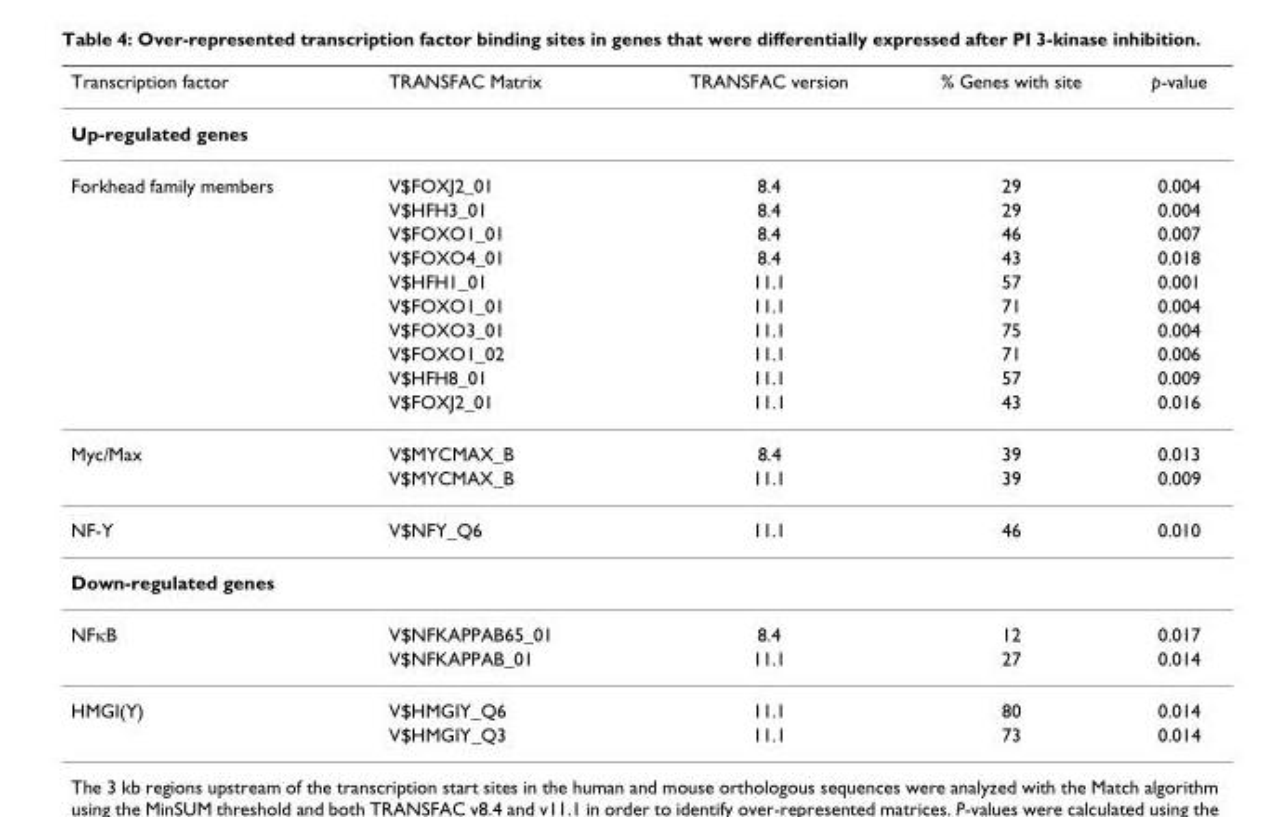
<table><thead><tr><td>Transcription factor</td><td>TRANSFAC Matrix</td><td>TRANSFAC version</td><td>% Genes with site</td><td>p-value</td></tr></thead><tbody><tr><td colspan="5">Up-regulated genes</td></tr><tr><td rowspan="10">Forkhead family members</td><td>V$FOXJ2_01</td><td>8.4</td><td>29</td><td>0.004</td></tr><tr><td>V$HFH3_01</td><td>8.4</td><td>29</td><td>0.004</td></tr><tr><td>V$FOXO1_01</td><td>8.4</td><td>46</td><td>0.007</td></tr><tr><td>V$FOXO4_01</td><td>8.4</td><td>43</td><td>0.018</td></tr><tr><td>V$HFH1_01</td><td>11.1</td><td>57</td><td>0.001</td></tr><tr><td>V$FOXO1_01</td><td>11.1</td><td>71</td><td>0.004</td></tr><tr><td>V$FOXO3_01</td><td>11.1</td><td>75</td><td>0.004</td></tr><tr><td>V$FOXO1_02</td><td>11.1</td><td>71</td><td>0.006</td></tr><tr><td>V$HFH8_01</td><td>11.1</td><td>57</td><td>0.009</td></tr><tr><td>V$FOXJ2_01</td><td>11.1</td><td>43</td><td>0.016</td></tr><tr><td rowspan="2">Myc/Max</td><td>V$MYCMAX_B</td><td>8.4</td><td>39</td><td>0.013</td></tr><tr><td>V$MYCMAX_B</td><td>11.1</td><td>39</td><td>0.009</td></tr><tr><td>NF-Y</td><td>V$NFY_Q6</td><td>11.1</td><td>46</td><td>0.010</td></tr><tr><td colspan="5">Down-regulated genes</td></tr><tr><td rowspan="2">NFκB</td><td>V$NFKAPPAB65_01</td><td>8.4</td><td>12</td><td>0.017</td></tr><tr><td>V$NFKAPPAB_01</td><td>11.1</td><td>27</td><td>0.014</td></tr><tr><td rowspan="2">HMGI(Y)</td><td>V$HMGIY_Q6</td><td>11.1</td><td>80</td><td>0.014</td></tr><tr><td>V$HMGIY_Q3</td><td>11.1</td><td>73</td><td>0.014</td></tr></tbody></table>